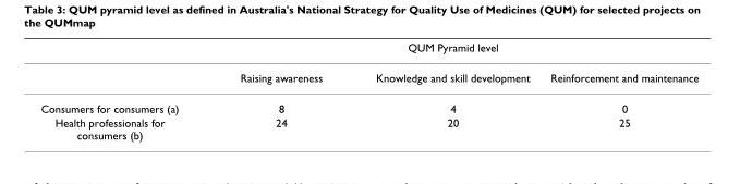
<table><thead><tr><td rowspan="2"></td><td colspan="3">QUM Pyramid level</td></tr><tr><td>Raising awareness</td><td>Knowledge and skill development</td><td>Reinforcement and maintenance</td></tr></thead><tbody><tr><td>Consumers for consumers (a)</td><td>8</td><td>4</td><td>0</td></tr><tr><td>Health professionals for consumers (b)</td><td>24</td><td>20</td><td>25</td></tr></tbody></table>